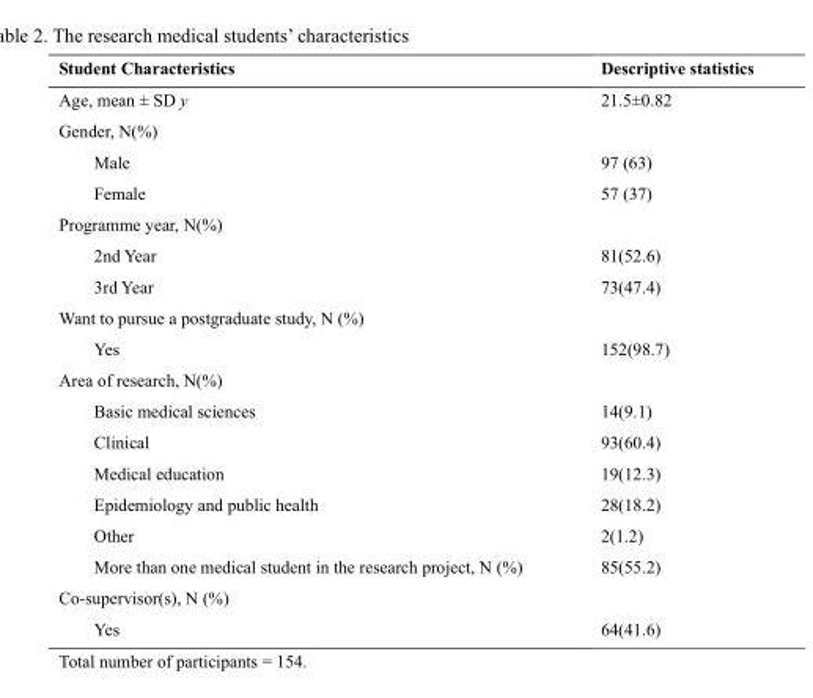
<table><thead><tr><td>Student Characteristics</td><td>Descriptive statistics</td></tr></thead><tbody><tr><td>Age, mean ± SD y</td><td>21.5±0.82</td></tr><tr><td colspan="2">Gender, N(%)</td></tr><tr><td>Male</td><td>97 (63)</td></tr><tr><td>Female</td><td>57 (37)</td></tr><tr><td colspan="2">Programme year, N(%)</td></tr><tr><td>2nd Year</td><td>81(52.6)</td></tr><tr><td>3rd Year</td><td>73(47.4)</td></tr><tr><td colspan="2">Want to pursue a postgraduate study, N (%)</td></tr><tr><td>Yes</td><td>152(98.7)</td></tr><tr><td colspan="2">Area of research, N(%)</td></tr><tr><td>Basic medical sciences</td><td>14(9.1)</td></tr><tr><td>Clinical</td><td>93(60.4)</td></tr><tr><td>Medical education</td><td>19(12.3)</td></tr><tr><td>Epidemiology and public health</td><td>28(18.2)</td></tr><tr><td>Other</td><td>2(1.2)</td></tr><tr><td>More than one medical student in the research project, N (%)</td><td>85(55.2)</td></tr><tr><td colspan="2">Co-supervisor(s), N (%)</td></tr><tr><td>Yes</td><td>64(41.6)</td></tr></tbody></table>